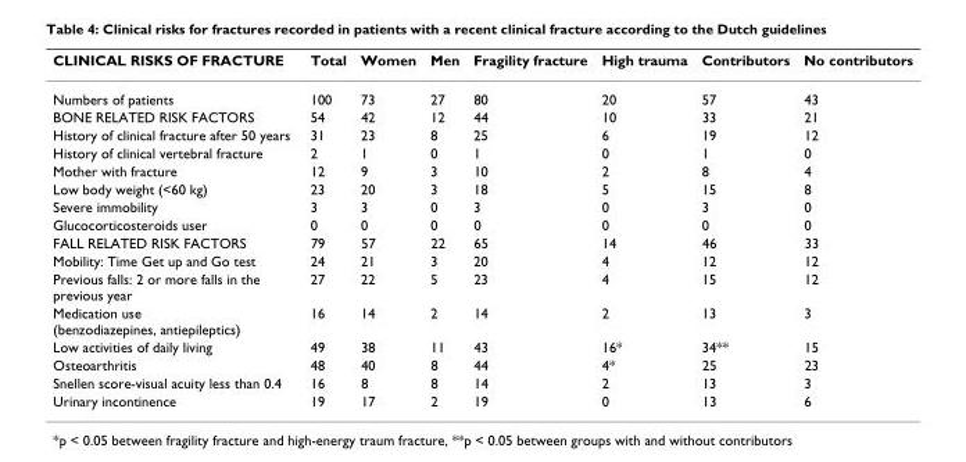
<table><thead><tr><td>CLINICAL RISKS OF FRACTURE</td><td>Total</td><td>Women</td><td>Men</td><td>Fragility fracture</td><td>High trauma</td><td>Contributors</td><td>No contributors</td></tr></thead><tbody><tr><td>Numbers of patients</td><td>100</td><td>73</td><td>27</td><td>80</td><td>20</td><td>57</td><td>43</td></tr><tr><td>BONE RELATED RISK FACTORS</td><td>54</td><td>42</td><td>12</td><td>44</td><td>10</td><td>33</td><td>21</td></tr><tr><td>History of clinical fracture after 50 years</td><td>31</td><td>23</td><td>8</td><td>25</td><td>6</td><td>19</td><td>12</td></tr><tr><td>History of clinical vertebral fracture</td><td>2</td><td>1</td><td>0</td><td>1</td><td>0</td><td>1</td><td>0</td></tr><tr><td>Mother with fracture</td><td>12</td><td>9</td><td>3</td><td>10</td><td>2</td><td>8</td><td>4</td></tr><tr><td>Low body weight (&lt;60 kg)</td><td>23</td><td>20</td><td>3</td><td>18</td><td>5</td><td>15</td><td>8</td></tr><tr><td>Severe immobility</td><td>3</td><td>3</td><td>0</td><td>3</td><td>0</td><td>3</td><td>0</td></tr><tr><td>Glucocorticosteroids user</td><td>0</td><td>0</td><td>0</td><td>0</td><td>0</td><td>0</td><td>0</td></tr><tr><td>FALL RELATED RISK FACTORS</td><td>79</td><td>57</td><td>22</td><td>65</td><td>14</td><td>46</td><td>33</td></tr><tr><td>Mobility: Time Get up and Go test</td><td>24</td><td>21</td><td>3</td><td>20</td><td>4</td><td>12</td><td>12</td></tr><tr><td>Previous falls: 2 or more falls in the previous year</td><td>27</td><td>22</td><td>5</td><td>23</td><td>4</td><td>15</td><td>12</td></tr><tr><td>Medication use (benzodiazepines, antiepileptics)</td><td>16</td><td>14</td><td>2</td><td>14</td><td>2</td><td>13</td><td>3</td></tr><tr><td>Low activities of daily living</td><td>49</td><td>38</td><td>11</td><td>43</td><td>16*</td><td>34**</td><td>15</td></tr><tr><td>Osteoarthritis</td><td>48</td><td>40</td><td>8</td><td>44</td><td>4*</td><td>25</td><td>23</td></tr><tr><td>Snellen score-visual acuity less than 0.4</td><td>16</td><td>8</td><td>8</td><td>14</td><td>2</td><td>13</td><td>3</td></tr><tr><td>Urinary incontinence</td><td>19</td><td>17</td><td>2</td><td>19</td><td>0</td><td>13</td><td>6</td></tr></tbody></table>